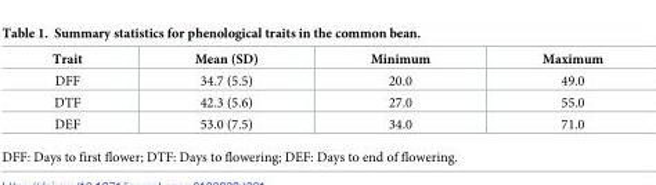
<table><thead><tr><td>Trait</td><td>Mean (SD)</td><td>Minimum</td><td>Maximum</td></tr></thead><tbody><tr><td>DFF</td><td>34.7 (5.5)</td><td>20.0</td><td>49.0</td></tr><tr><td>DTF</td><td>42.3 (5.6)</td><td>27.0</td><td>55.0</td></tr><tr><td>DEF</td><td>53.0 (7.5)</td><td>34.0</td><td>71.0</td></tr></tbody></table>